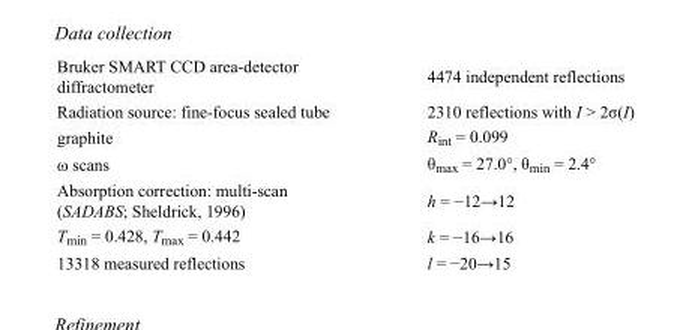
<table><tbody><tr><td>Bruker SMART CCD area-detector diffractometer</td><td>4474 independent reflections</td></tr><tr><td>Radiation source: fine-focus sealed tube</td><td>2310 reflections with I &gt; 2σ(I)</td></tr><tr><td>graphite</td><td>R<sub>int</sub> = 0.099</td></tr><tr><td>ω scans</td><td>θ<sub>max</sub> = 27.0°, θ<sub>min</sub> = 2.4°</td></tr><tr><td>Absorption correction: multi-scan (SADABS; Sheldrick, 1996)</td><td>h = −12→12</td></tr><tr><td>T<sub>min</sub> = 0.428, T<sub>max</sub> = 0.442</td><td>k = −16→16</td></tr><tr><td>13318 measured reflections</td><td>l = −20→15</td></tr></tbody></table>